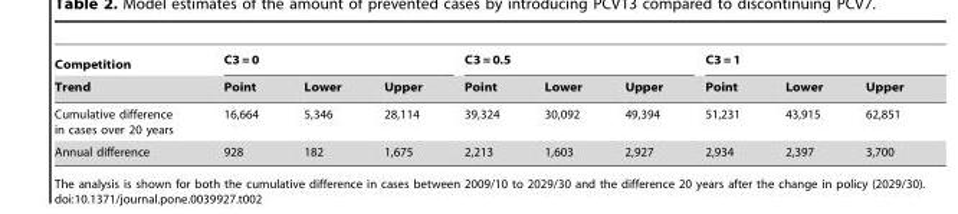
<table><thead><tr><td rowspan="2">Competition Trend</td><td colspan="3">C3 = 0</td><td colspan="3">C3 = 0.5</td><td colspan="3">C3 = 1</td></tr><tr><td>Point</td><td>Lower</td><td>Upper</td><td>Point</td><td>Lower</td><td>Upper</td><td>Point</td><td>Lower</td><td>Upper</td></tr></thead><tbody><tr><td>Cumulative difference in cases over 20 years</td><td>16,664</td><td>5,346</td><td>28,114</td><td>39,324</td><td>30,092</td><td>49,394</td><td>51,231</td><td>43,915</td><td>62,851</td></tr><tr><td>Annual difference</td><td>928</td><td>182</td><td>1,675</td><td>2,213</td><td>1,603</td><td>2,927</td><td>2,934</td><td>2,397</td><td>3,700</td></tr></tbody></table>